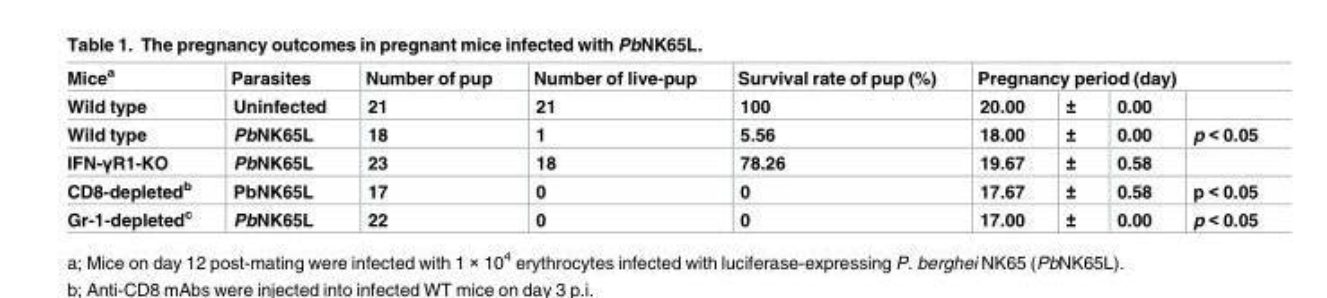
<table><thead><tr><td rowspan="2">Mice<sup>a</sup> Wild type</td><td rowspan="2">Parasites Uninfected</td><td rowspan="2">Number of pup 21</td><td rowspan="2">Number of live-pup 21</td><td rowspan="2">Survival rate of pup (%) 100</td><td colspan="4">Pregnancy period (day)</td></tr><tr><td>20.00</td><td>±</td><td>0.00</td><td></td></tr></thead><tbody><tr><td>Wild type</td><td>PbNK65L</td><td>18</td><td>1</td><td>5.56</td><td>18.00</td><td>±</td><td>0.00</td><td>p &lt; 0.05</td></tr><tr><td>IFN-γR1-KO</td><td>PbNK65L</td><td>23</td><td>18</td><td>78.26</td><td>19.67</td><td>±</td><td>0.58</td><td></td></tr><tr><td>CD8-depleted<sup>b</sup></td><td>PbNK65L</td><td>17</td><td>0</td><td>0</td><td>17.67</td><td>±</td><td>0.58</td><td>p &lt; 0.05</td></tr><tr><td>Gr-1-depleted<sup>c</sup></td><td>PbNK65L</td><td>22</td><td>0</td><td>0</td><td>17.00</td><td>±</td><td>0.00</td><td>p &lt; 0.05</td></tr></tbody></table>